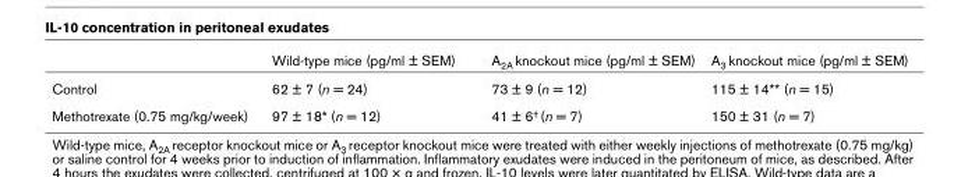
<table><thead><tr><td></td><td>Wild-type mice (pg/ml ± SEM)</td><td>A2A knockout mice (pg/ml ± SEM)</td><td>A3 knockout mice (pg/ml ± SEM)</td></tr></thead><tbody><tr><td>Control</td><td>62 ± 7 (n = 24)</td><td>73 ± 9 (n = 12)</td><td>115 ± 14** (n = 15)</td></tr><tr><td>Methotrexate (0.75 mg/kg/week)</td><td>97 ± 18* (n = 12)</td><td>41 ± 6† (n = 7)</td><td>150 ± 31 (n = 7)</td></tr></tbody></table>